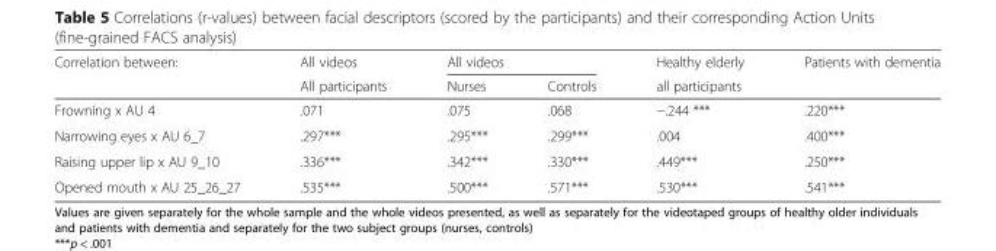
<table><thead><tr><td rowspan="2">Correlation between:</td><td rowspan="2">All videos All participants</td><td colspan="2">All videos</td><td>Healthy elderly</td><td>Patients with dementia</td></tr><tr><td>Nurses</td><td>Controls</td><td colspan="2">all participants</td></tr></thead><tbody><tr><td>Frowning x AU 4</td><td>.071</td><td>.075</td><td>.068</td><td>−.244 ***</td><td>.220***</td></tr><tr><td>Narrowing eyes x AU 6_7</td><td>.297***</td><td>.295***</td><td>.299***</td><td>.004</td><td>.400***</td></tr><tr><td>Raising upper lip x AU 9_10</td><td>.336***</td><td>.342***</td><td>.330***</td><td>.449***</td><td>.250***</td></tr><tr><td>Opened mouth x AU 25_26_27</td><td>.535***</td><td>.500***</td><td>.571***</td><td>.530***</td><td>.541***</td></tr></tbody></table>